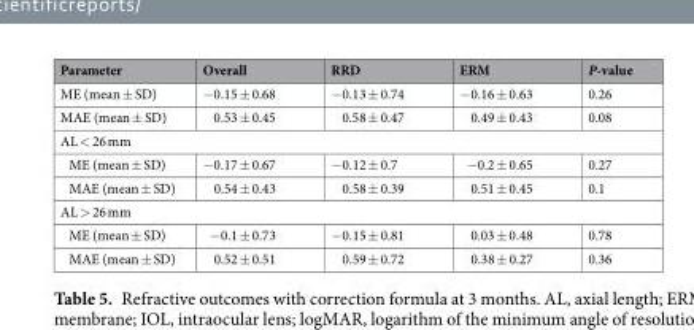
<table><thead><tr><td>Parameter</td><td>Overall</td><td>RRD</td><td>ERM</td><td>P-value</td></tr></thead><tbody><tr><td>ME (mean ± SD)</td><td>−0.15 ± 0.68</td><td>−0.13 ± 0.74</td><td>−0.16 ± 0.63</td><td>0.26</td></tr><tr><td>MAE (mean ± SD)</td><td>0.53 ± 0.45</td><td>0.58 ± 0.47</td><td>0.49 ± 0.43</td><td>0.08</td></tr><tr><td colspan="5">AL &lt; 26 mm</td></tr><tr><td>ME (mean ± SD)</td><td>−0.17 ± 0.67</td><td>−0.12 ± 0.7</td><td>−0.2 ± 0.65</td><td>0.27</td></tr><tr><td>MAE (mean ± SD)</td><td>0.54 ± 0.43</td><td>0.58 ± 0.39</td><td>0.51 ± 0.45</td><td>0.1</td></tr><tr><td colspan="5">AL &gt; 26 mm</td></tr><tr><td>ME (mean ± SD)</td><td>−0.1 ± 0.73</td><td>−0.15 ± 0.81</td><td>0.03 ± 0.48</td><td>0.78</td></tr><tr><td>MAE (mean ± SD)</td><td>0.52 ± 0.51</td><td>0.59 ± 0.72</td><td>0.38 ± 0.27</td><td>0.36</td></tr></tbody></table>